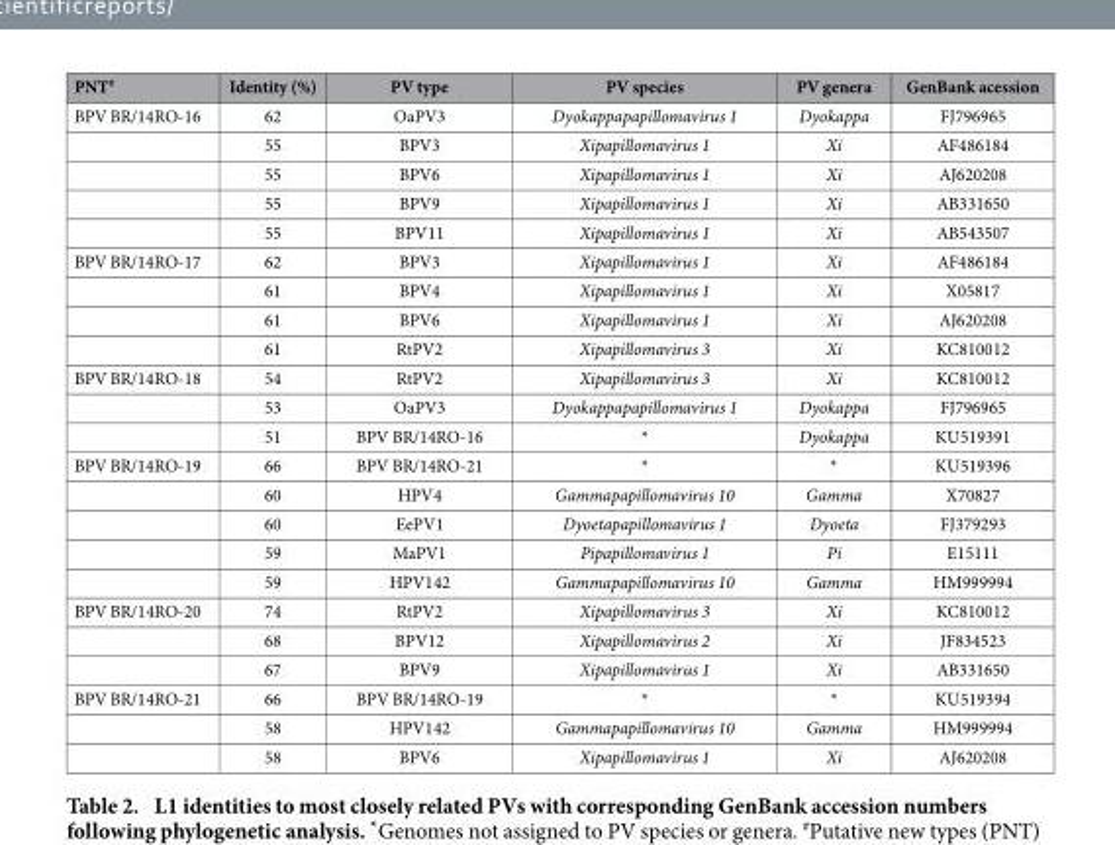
<table><thead><tr><td>PNT#</td><td>Identity (%)</td><td>PV type</td><td>PV species</td><td>PV genera</td><td>GenBank acession</td></tr></thead><tbody><tr><td rowspan="5">BPV BR/14RO-16</td><td>62</td><td>OaPV3</td><td>Dyokappapapillomavirus 1</td><td>Dyokappa</td><td>FJ796965</td></tr><tr><td>55</td><td>BPV3</td><td>Xipapillomavirus 1</td><td>Xi</td><td>AF486184</td></tr><tr><td>55</td><td>BPV6</td><td>Xipapillomavirus 1</td><td>Xi</td><td>AJ620208</td></tr><tr><td>55</td><td>BPV9</td><td>Xipapillomavirus 1</td><td>Xi</td><td>AB331650</td></tr><tr><td>55</td><td>BPV11</td><td>Xipapillomavirus 1</td><td>Xi</td><td>AB543507</td></tr><tr><td rowspan="4">BPV BR/14RO-17</td><td>62</td><td>BPV3</td><td>Xipapillomavirus 1</td><td>Xi</td><td>AF486184</td></tr><tr><td>61</td><td>BPV4</td><td>Xipapillomavirus 1</td><td>Xi</td><td>X05817</td></tr><tr><td>61</td><td>BPV6</td><td>Xipapillomavirus 1</td><td>Xi</td><td>AJ620208</td></tr><tr><td>61</td><td>RtPV2</td><td>Xipapillomavirus 3</td><td>Xi</td><td>KC810012</td></tr><tr><td rowspan="3">BPV BR/14RO-18</td><td>54</td><td>RtPV2</td><td>Xipapillomavirus 3</td><td>Xi</td><td>KC810012</td></tr><tr><td>53</td><td>OaPV3</td><td>Dyokappapapillomavirus 1</td><td>Dyokappa</td><td>FJ796965</td></tr><tr><td>51</td><td>BPV BR/14RO-16</td><td>*</td><td>Dyokappa</td><td>KU519391</td></tr><tr><td rowspan="5">BPV BR/14RO-19</td><td>66</td><td>BPV BR/14RO-21</td><td>*</td><td>*</td><td>KU519396</td></tr><tr><td>60</td><td>HPV4</td><td>Gammapapillomavirus 10</td><td>Gamma</td><td>X70827</td></tr><tr><td>60</td><td>EePV1</td><td>Dyoetapapillomavirus 1</td><td>Dyoeta</td><td>FJ379293</td></tr><tr><td>59</td><td>MaPV1</td><td>Pipapillomavirus 1</td><td>Pi</td><td>E15111</td></tr><tr><td>59</td><td>HPV142</td><td>Gammapapillomavirus 10</td><td>Gamma</td><td>HM999994</td></tr><tr><td rowspan="3">BPV BR/14RO-20</td><td>74</td><td>RtPV2</td><td>Xipapillomavirus 3</td><td>Xi</td><td>KC810012</td></tr><tr><td>68</td><td>BPV12</td><td>Xipapillomavirus 2</td><td>Xi</td><td>JF834523</td></tr><tr><td>67</td><td>BPV9</td><td>Xipapillomavirus 1</td><td>Xi</td><td>AB331650</td></tr><tr><td rowspan="3">BPV BR/14RO-21</td><td>66</td><td>BPV BR/14RO-19</td><td>*</td><td>*</td><td>KU519394</td></tr><tr><td>58</td><td>HPV142</td><td>Gammapapillomavirus 10</td><td>Gamma</td><td>HM999994</td></tr><tr><td>58</td><td>BPV6</td><td>Xipapillomavirus 1</td><td>Xi</td><td>AJ620208</td></tr></tbody></table>